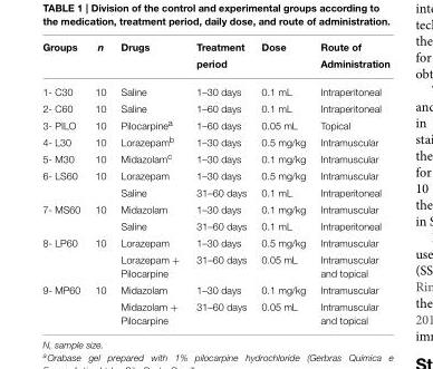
<table><thead><tr><td>Groups</td><td>n</td><td>Drugs</td><td>Treatment period</td><td>Dose</td><td>Route of Administration</td></tr></thead><tbody><tr><td>1- C30</td><td>10</td><td>Saline</td><td>1–30 days</td><td>0.1 mL</td><td>Intraperitoneal</td></tr><tr><td>2- C60</td><td>10</td><td>Saline</td><td>1–60 days</td><td>0.1 mL</td><td>Intraperitoneal</td></tr><tr><td>3- PILO</td><td>10</td><td>Pilocarpine<sup>a</sup></td><td>1–60 days</td><td>0.05 mL</td><td>Topical</td></tr><tr><td>4- L30</td><td>10</td><td>Lorazepam<sup>b</sup></td><td>1–30 days</td><td>0.5 mg/kg</td><td>Intramuscular</td></tr><tr><td>5- M30</td><td>10</td><td>Midazolam<sup>c</sup></td><td>1–30 days</td><td>0.1 mg/kg</td><td>Intramuscular</td></tr><tr><td rowspan="2">6- LS60</td><td>10</td><td>Lorazepam</td><td>1–30 days</td><td>0.5 mg/kg</td><td>Intramuscular</td></tr><tr><td></td><td>Saline</td><td>31–60 days</td><td>0.1 mL</td><td>Intraperitoneal</td></tr><tr><td rowspan="2">7- MS60</td><td>10</td><td>Midazolam</td><td>1–30 days</td><td>0.1 mg/kg</td><td>Intramuscular</td></tr><tr><td></td><td>Saline</td><td>31–60 days</td><td>0.1 mL</td><td>Intraperitoneal</td></tr><tr><td rowspan="2">8- LP60</td><td>10</td><td>Lorazepam</td><td>1–30 days</td><td>0.5 mg/kg</td><td>Intramuscular</td></tr><tr><td></td><td>Lorazepam + Pilocarpine</td><td>31–60 days</td><td>0.05 mL</td><td>Intramuscular and topical</td></tr><tr><td rowspan="2">9- MP60</td><td>10</td><td>Midazolam</td><td>1–30 days</td><td>0.1 mg/kg</td><td>Intramuscular</td></tr><tr><td></td><td>Midazolam + Pilocarpine</td><td>31–60 days</td><td>0.05 mL</td><td>Intramuscular and topical</td></tr></tbody></table>